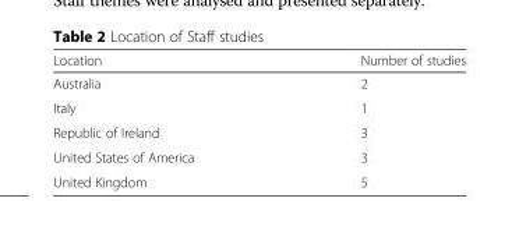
<table><thead><tr><td>Location</td><td>Number of studies</td></tr></thead><tbody><tr><td>Australia</td><td>2</td></tr><tr><td>Italy</td><td>1</td></tr><tr><td>Republic of Ireland</td><td>3</td></tr><tr><td>United States of America</td><td>3</td></tr><tr><td>United Kingdom</td><td>5</td></tr></tbody></table>